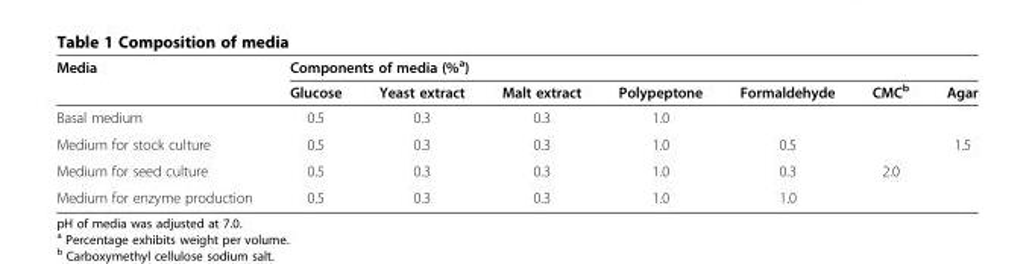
<table><thead><tr><td rowspan="2">Media</td><td colspan="7">Components of media (%<sup>a</sup>)</td></tr><tr><td>Glucose</td><td>Yeast extract</td><td>Malt extract</td><td>Polypeptone</td><td>Formaldehyde</td><td>CMC<sup>b</sup></td><td>Agar</td></tr></thead><tbody><tr><td>Basal medium</td><td>0.5</td><td>0.3</td><td>0.3</td><td>1.0</td><td></td><td></td><td></td></tr><tr><td>Medium for stock culture</td><td>0.5</td><td>0.3</td><td>0.3</td><td>1.0</td><td>0.5</td><td></td><td>1.5</td></tr><tr><td>Medium for seed culture</td><td>0.5</td><td>0.3</td><td>0.3</td><td>1.0</td><td>0.3</td><td>2.0</td><td></td></tr><tr><td>Medium for enzyme production</td><td>0.5</td><td>0.3</td><td>0.3</td><td>1.0</td><td>1.0</td><td></td><td></td></tr></tbody></table>